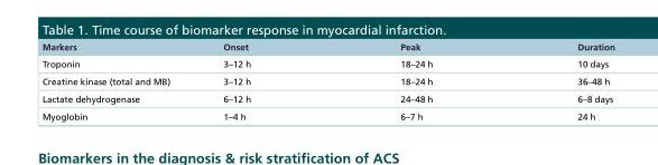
<table><thead><tr><td>Markers</td><td>Onset</td><td>Peak</td><td>Duration</td></tr></thead><tbody><tr><td>Troponin</td><td>3–12 h</td><td>18–24 h</td><td>10 days</td></tr><tr><td>Creatine kinase (total and MB)</td><td>3–12 h</td><td>18–24 h</td><td>36–48 h</td></tr><tr><td>Lactate dehydrogenase</td><td>6–12 h</td><td>24–48 h</td><td>6–8 days</td></tr><tr><td>Myoglobin</td><td>1–4 h</td><td>6–7 h</td><td>24 h</td></tr></tbody></table>